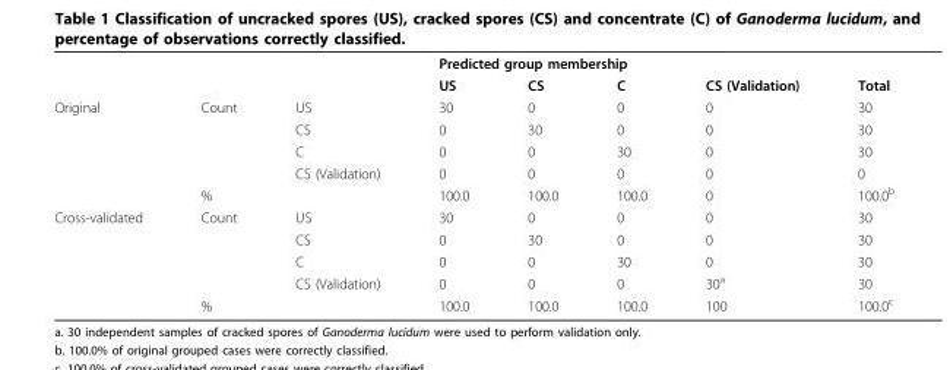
<table><thead><tr><td rowspan="2"></td><td rowspan="2"></td><td rowspan="2"></td><td colspan="5">Predicted group membership</td></tr><tr><td>US</td><td>CS</td><td>C</td><td>CS (Validation)</td><td>Total</td></tr></thead><tbody><tr><td rowspan="5">Original</td><td>Count</td><td>US</td><td>30</td><td>0</td><td>0</td><td>0</td><td>30</td></tr><tr><td></td><td>CS</td><td>0</td><td>30</td><td>0</td><td>0</td><td>30</td></tr><tr><td></td><td>C</td><td>0</td><td>0</td><td>30</td><td>0</td><td>30</td></tr><tr><td></td><td>CS (Validation)</td><td>0</td><td>0</td><td>0</td><td>0</td><td>0</td></tr><tr><td>%</td><td></td><td>100.0</td><td>100.0</td><td>100.0</td><td>0</td><td>100.0<sup>b</sup></td></tr><tr><td rowspan="5">Cross-validated</td><td>Count</td><td>US</td><td>30</td><td>0</td><td>0</td><td>0</td><td>30</td></tr><tr><td></td><td>CS</td><td>0</td><td>30</td><td>0</td><td>0</td><td>30</td></tr><tr><td></td><td>C</td><td>0</td><td>0</td><td>30</td><td>0</td><td>30</td></tr><tr><td></td><td>CS (Validation)</td><td>0</td><td>0</td><td>0</td><td>30<sup>a</sup></td><td>30</td></tr><tr><td>%</td><td></td><td>100.0</td><td>100.0</td><td>100.0</td><td>100</td><td>100.0<sup>c</sup></td></tr></tbody></table>